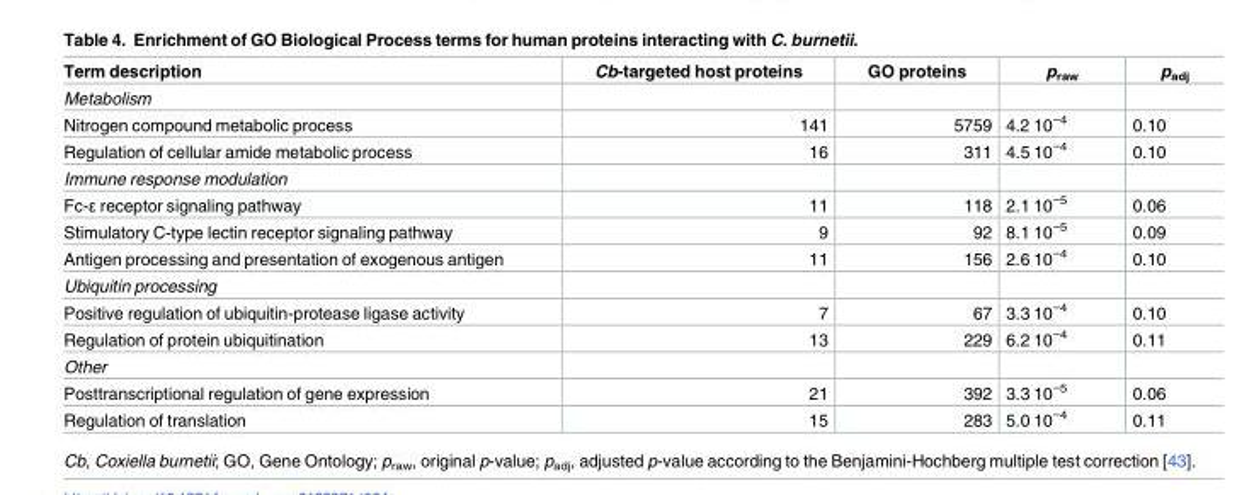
<table><thead><tr><td>Term description</td><td>Cb-targeted host proteins</td><td>GO proteins</td><td>p<sub>raw</sub></td><td>p<sub>adj</sub></td></tr></thead><tbody><tr><td colspan="5">Metabolism</td></tr><tr><td>Nitrogen compound metabolic process</td><td>141</td><td>5759</td><td>4.2 10<sup>−4</sup></td><td>0.10</td></tr><tr><td>Regulation of cellular amide metabolic process</td><td>16</td><td>311</td><td>4.5 10<sup>−4</sup></td><td>0.10</td></tr><tr><td colspan="5">Immune response modulation</td></tr><tr><td>Fc-ε receptor signaling pathway</td><td>11</td><td>118</td><td>2.1 10<sup>−5</sup></td><td>0.06</td></tr><tr><td>Stimulatory C-type lectin receptor signaling pathway</td><td>9</td><td>92</td><td>8.1 10<sup>−5</sup></td><td>0.09</td></tr><tr><td>Antigen processing and presentation of exogenous antigen</td><td>11</td><td>156</td><td>2.6 10<sup>−4</sup></td><td>0.10</td></tr><tr><td colspan="5">Ubiquitin processing</td></tr><tr><td>Positive regulation of ubiquitin-protease ligase activity</td><td>7</td><td>67</td><td>3.3 10<sup>−4</sup></td><td>0.10</td></tr><tr><td>Regulation of protein ubiquitination</td><td>13</td><td>229</td><td>6.2 10<sup>−4</sup></td><td>0.11</td></tr><tr><td colspan="5">Other</td></tr><tr><td>Posttranscriptional regulation of gene expression</td><td>21</td><td>392</td><td>3.3 10<sup>−5</sup></td><td>0.06</td></tr><tr><td>Regulation of translation</td><td>15</td><td>283</td><td>5.0 10<sup>−4</sup></td><td>0.11</td></tr></tbody></table>